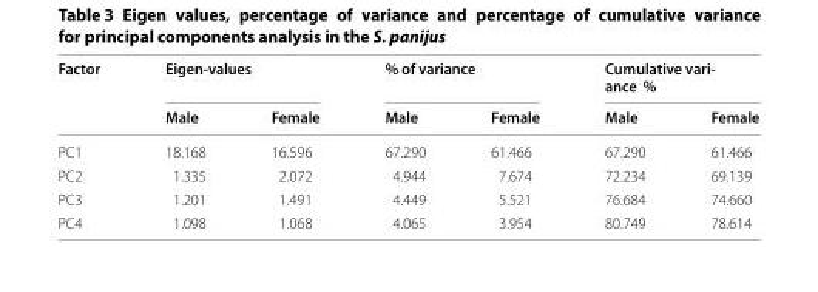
<table><thead><tr><td rowspan="2">Factor</td><td colspan="2">Eigen-values</td><td colspan="2">% of variance</td><td colspan="2">Cumulative vari- ance %</td></tr><tr><td>Male</td><td>Female</td><td>Male</td><td>Female</td><td>Male</td><td>Female</td></tr></thead><tbody><tr><td>PC1</td><td>18.168</td><td>16.596</td><td>67.290</td><td>61.466</td><td>67.290</td><td>61.466</td></tr><tr><td>PC2</td><td>1.335</td><td>2.072</td><td>4.944</td><td>7.674</td><td>72.234</td><td>69.139</td></tr><tr><td>PC3</td><td>1.201</td><td>1.491</td><td>4.449</td><td>5.521</td><td>76.684</td><td>74.660</td></tr><tr><td>PC4</td><td>1.098</td><td>1.068</td><td>4.065</td><td>3.954</td><td>80.749</td><td>78.614</td></tr></tbody></table>